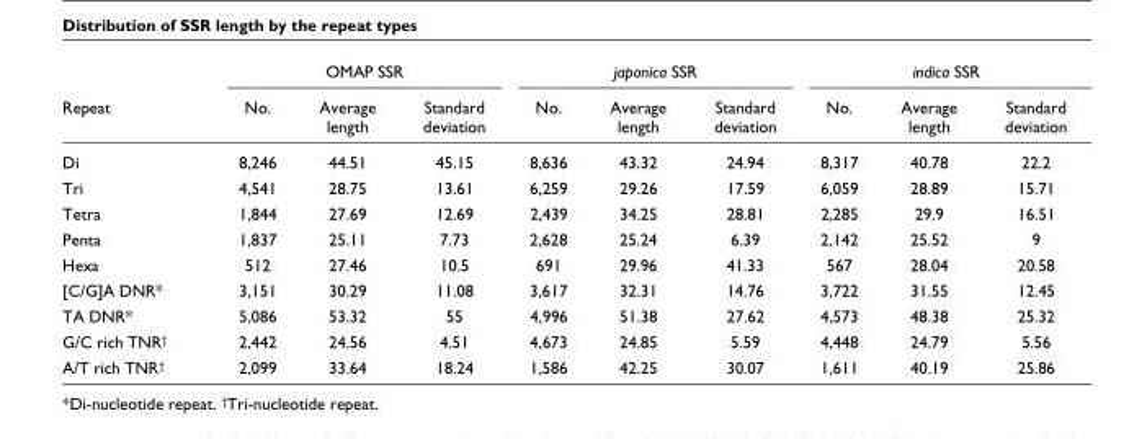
<table><thead><tr><td rowspan="2">Repeat</td><td colspan="3">OMAP SSR</td><td colspan="3">japonica SSR</td><td colspan="3">indica SSR</td></tr><tr><td>No.</td><td>Average length</td><td>Standard deviation</td><td>No.</td><td>Average length</td><td>Standard deviation</td><td>No.</td><td>Average length</td><td>Standard deviation</td></tr></thead><tbody><tr><td>Di</td><td>8,246</td><td>44.51</td><td>45.15</td><td>8,636</td><td>43.32</td><td>24.94</td><td>8,317</td><td>40.78</td><td>22.2</td></tr><tr><td>Tri</td><td>4,541</td><td>28.75</td><td>13.61</td><td>6,259</td><td>29.26</td><td>17.59</td><td>6,059</td><td>28.89</td><td>15.71</td></tr><tr><td>Tetra</td><td>1,844</td><td>27.69</td><td>12.69</td><td>2,439</td><td>34.25</td><td>28.81</td><td>2,285</td><td>29.9</td><td>16.51</td></tr><tr><td>Penta</td><td>1,837</td><td>25.11</td><td>7.73</td><td>2,628</td><td>25.24</td><td>6.39</td><td>2,142</td><td>25.52</td><td>9</td></tr><tr><td>Hexa</td><td>512</td><td>27.46</td><td>10.5</td><td>691</td><td>29.96</td><td>41.33</td><td>567</td><td>28.04</td><td>20.58</td></tr><tr><td>[C/G]A DNR*</td><td>3,151</td><td>30.29</td><td>11.08</td><td>3,617</td><td>32.31</td><td>14.76</td><td>3,722</td><td>31.55</td><td>12.45</td></tr><tr><td>TA DNR*</td><td>5,086</td><td>53.32</td><td>55</td><td>4,996</td><td>51.38</td><td>27.62</td><td>4,573</td><td>48.38</td><td>25.32</td></tr><tr><td>G/C rich TNR<sup>†</sup></td><td>2,442</td><td>24.56</td><td>4.51</td><td>4,673</td><td>24.85</td><td>5.59</td><td>4,448</td><td>24.79</td><td>5.56</td></tr><tr><td>A/T rich TNR<sup>†</sup></td><td>2,099</td><td>33.64</td><td>18.24</td><td>1,586</td><td>42.25</td><td>30.07</td><td>1,611</td><td>40.19</td><td>25.86</td></tr></tbody></table>